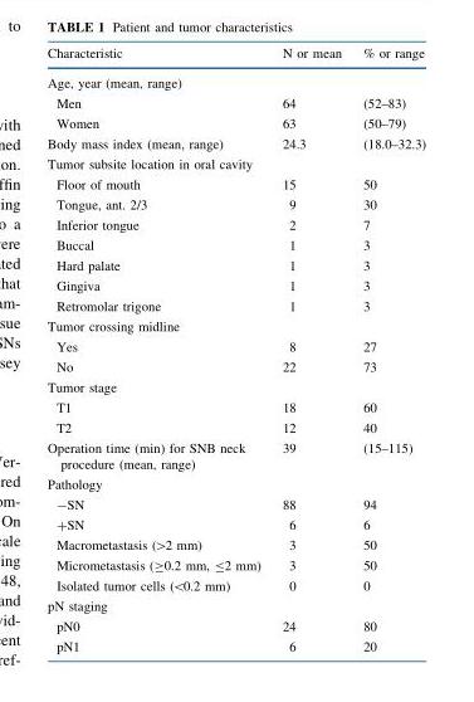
<table><thead><tr><td>Characteristic</td><td>N or mean</td><td>% or range</td></tr></thead><tbody><tr><td colspan="3">Age, year (mean, range)</td></tr><tr><td>Men</td><td>64</td><td>(52–83)</td></tr><tr><td>Women</td><td>63</td><td>(50–79)</td></tr><tr><td>Body mass index (mean, range)</td><td>24.3</td><td>(18.0–32.3)</td></tr><tr><td colspan="3">Tumor subsite location in oral cavity</td></tr><tr><td>Floor of mouth</td><td>15</td><td>50</td></tr><tr><td>Tongue, ant. 2/3</td><td>9</td><td>30</td></tr><tr><td>Inferior tongue</td><td>2</td><td>7</td></tr><tr><td>Buccal</td><td>1</td><td>3</td></tr><tr><td>Hard palate</td><td>1</td><td>3</td></tr><tr><td>Gingiva</td><td>1</td><td>3</td></tr><tr><td>Retromolar trigone</td><td>1</td><td>3</td></tr><tr><td colspan="3">Tumor crossing midline</td></tr><tr><td>Yes</td><td>8</td><td>27</td></tr><tr><td>No</td><td>22</td><td>73</td></tr><tr><td colspan="3">Tumor stage</td></tr><tr><td>T1</td><td>18</td><td>60</td></tr><tr><td>T2</td><td>12</td><td>40</td></tr><tr><td>Operation time (min) for SNB neck procedure (mean, range)</td><td>39</td><td>(15–115)</td></tr><tr><td colspan="3">Pathology</td></tr><tr><td>-SN</td><td>88</td><td>94</td></tr><tr><td>+SN</td><td>6</td><td>6</td></tr><tr><td>Macrometastasis (&gt;2 mm)</td><td>3</td><td>50</td></tr><tr><td>Micrometastasis (≥0.2 mm, ≤2 mm)</td><td>3</td><td>50</td></tr><tr><td>Isolated tumor cells (&lt;0.2 mm)</td><td>0</td><td>0</td></tr><tr><td colspan="3">pN staging</td></tr><tr><td>pN0</td><td>24</td><td>80</td></tr><tr><td>pN1</td><td>6</td><td>20</td></tr></tbody></table>